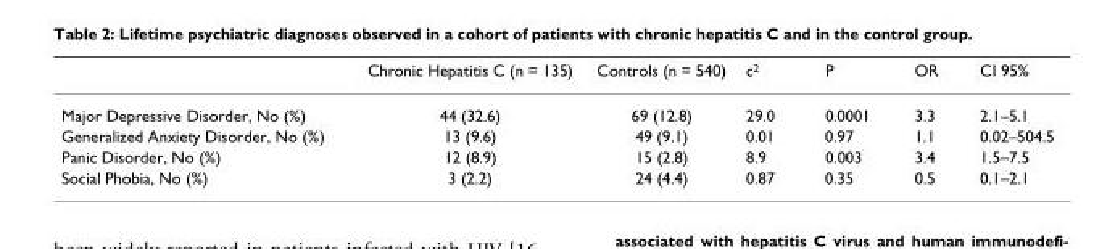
<table><thead><tr><td></td><td>Chronic Hepatitis C (n = 135)</td><td>Controls (n = 540)</td><td>c<sup>2</sup></td><td>P</td><td>OR</td><td>CI 95%</td></tr></thead><tbody><tr><td>Major Depressive Disorder, No (%)</td><td>44 (32.6)</td><td>69 (12.8)</td><td>29.0</td><td>0.0001</td><td>3.3</td><td>2.1–5.1</td></tr><tr><td>Generalized Anxiety Disorder, No (%)</td><td>13 (9.6)</td><td>49 (9.1)</td><td>0.01</td><td>0.97</td><td>1.1</td><td>0.02–504.5</td></tr><tr><td>Panic Disorder, No (%)</td><td>12 (8.9)</td><td>15 (2.8)</td><td>8.9</td><td>0.003</td><td>3.4</td><td>1.5–7.5</td></tr><tr><td>Social Phobia, No (%)</td><td>3 (2.2)</td><td>24 (4.4)</td><td>0.87</td><td>0.35</td><td>0.5</td><td>0.1–2.1</td></tr></tbody></table>